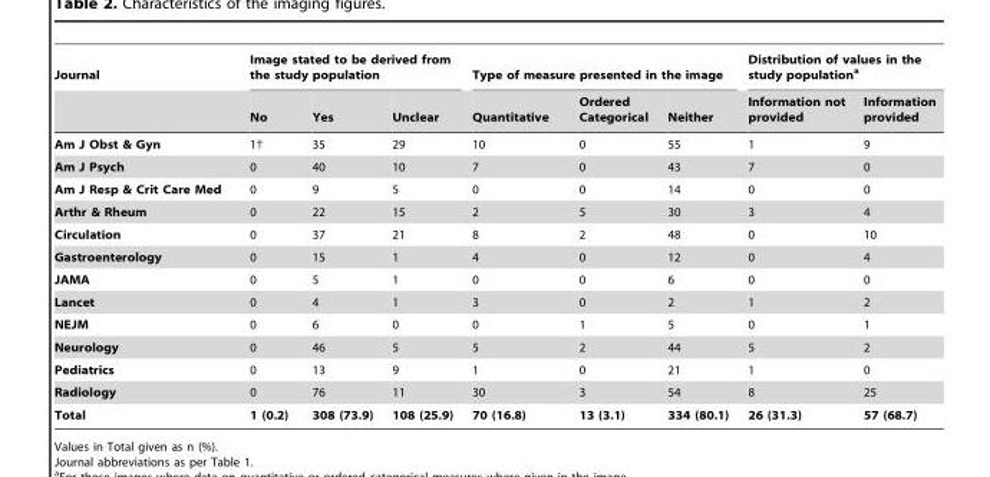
<table><thead><tr><td rowspan="2">Journal</td><td colspan="3">Image stated to be derived from the study population</td><td colspan="3">Type of measure presented in the image</td><td colspan="2">Distribution of values in the study population<sup>a</sup></td></tr><tr><td>No</td><td>Yes</td><td>Unclear</td><td>Quantitative</td><td>Ordered Categorical</td><td>Neither</td><td>Information not provided</td><td>Information provided</td></tr></thead><tbody><tr><td>Am J Obst &amp; Gyn</td><td>1†</td><td>35</td><td>29</td><td>10</td><td>0</td><td>55</td><td>1</td><td>9</td></tr><tr><td>Am J Psych</td><td>0</td><td>40</td><td>10</td><td>7</td><td>0</td><td>43</td><td>7</td><td>0</td></tr><tr><td>Am J Resp &amp; Crit Care Med</td><td>0</td><td>9</td><td>5</td><td>0</td><td>0</td><td>14</td><td>0</td><td>0</td></tr><tr><td>Arthr &amp; Rheum</td><td>0</td><td>22</td><td>15</td><td>2</td><td>5</td><td>30</td><td>3</td><td>4</td></tr><tr><td>Circulation</td><td>0</td><td>37</td><td>21</td><td>8</td><td>2</td><td>48</td><td>0</td><td>10</td></tr><tr><td>Gastroenterology</td><td>0</td><td>15</td><td>1</td><td>4</td><td>0</td><td>12</td><td>0</td><td>4</td></tr><tr><td>JAMA</td><td>0</td><td>5</td><td>1</td><td>0</td><td>0</td><td>6</td><td>0</td><td>0</td></tr><tr><td>Lancet</td><td>0</td><td>4</td><td>1</td><td>3</td><td>0</td><td>2</td><td>1</td><td>2</td></tr><tr><td>NEJM</td><td>0</td><td>6</td><td>0</td><td>0</td><td>1</td><td>5</td><td>0</td><td>1</td></tr><tr><td>Neurology</td><td>0</td><td>46</td><td>5</td><td>5</td><td>2</td><td>44</td><td>5</td><td>2</td></tr><tr><td>Pediatrics</td><td>0</td><td>13</td><td>9</td><td>1</td><td>0</td><td>21</td><td>1</td><td>0</td></tr><tr><td>Radiology</td><td>0</td><td>76</td><td>11</td><td>30</td><td>3</td><td>54</td><td>8</td><td>25</td></tr><tr><td>Total</td><td>1 (0.2)</td><td>308 (73.9)</td><td>108 (25.9)</td><td>70 (16.8)</td><td>13 (3.1)</td><td>334 (80.1)</td><td>26 (31.3)</td><td>57 (68.7)</td></tr></tbody></table>